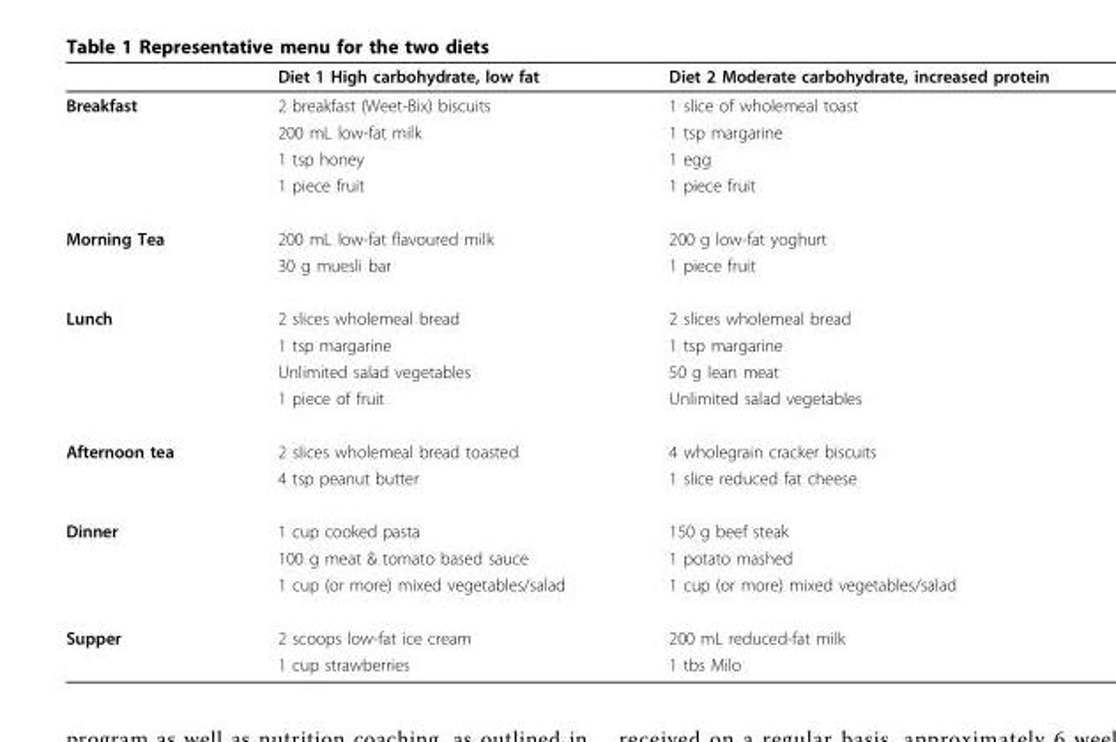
<table><thead><tr><td></td><td>Diet 1 High carbohydrate, low fat</td><td>Diet 2 Moderate carbohydrate, increased protein</td></tr></thead><tbody><tr><td rowspan="4">Breakfast</td><td>2 breakfast (Weet-Bix) biscuits</td><td>1 slice of wholemeal toast</td></tr><tr><td>200 mL low-fat milk</td><td>1 tsp margarine</td></tr><tr><td>1 tsp honey</td><td>1 egg</td></tr><tr><td>1 piece fruit</td><td>1 piece fruit</td></tr><tr><td rowspan="2">Morning Tea</td><td>200 mL low-fat flavoured milk</td><td>200 g low-fat yoghurt</td></tr><tr><td>30 g muesli bar</td><td>1 piece fruit</td></tr><tr><td rowspan="4">Lunch</td><td>2 slices wholemeal bread</td><td>2 slices wholemeal bread</td></tr><tr><td>1 tsp margarine</td><td>1 tsp margarine</td></tr><tr><td>Unlimited salad vegetables</td><td>50 g lean meat</td></tr><tr><td>1 piece of fruit</td><td>Unlimited salad vegetables</td></tr><tr><td rowspan="2">Afternoon tea</td><td>2 slices wholemeal bread toasted</td><td>4 wholegrain cracker biscuits</td></tr><tr><td>4 tsp peanut butter</td><td>1 slice reduced fat cheese</td></tr><tr><td rowspan="3">Dinner</td><td>1 cup cooked pasta</td><td>150 g beef steak</td></tr><tr><td>100 g meat &amp; tomato based sauce</td><td>1 potato mashed</td></tr><tr><td>1 cup (or more) mixed vegetables/salad</td><td>1 cup (or more) mixed vegetables/salad</td></tr><tr><td rowspan="2">Supper</td><td>2 scoops low-fat ice cream</td><td>200 mL reduced-fat milk</td></tr><tr><td>1 cup strawberries</td><td>1 tbs Milo</td></tr></tbody></table>